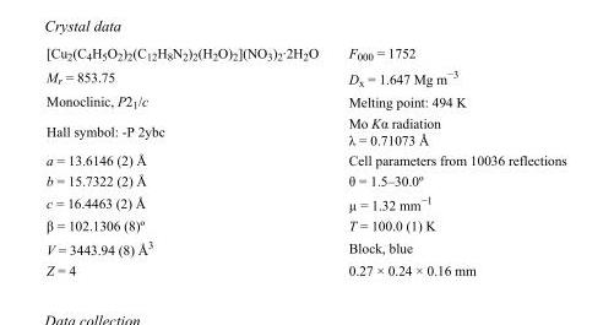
<table><tbody><tr><td>[Cu<sub>2</sub>(C<sub>4</sub>H<sub>5</sub>O<sub>2</sub>)<sub>2</sub>(C<sub>12</sub>H<sub>8</sub>N<sub>2</sub>)<sub>2</sub>(H<sub>2</sub>O)<sub>2</sub>](NO<sub>3</sub>)<sub>2</sub>·2H<sub>2</sub>O</td><td>F<sub>000</sub> = 1752</td></tr><tr><td>M<sub>r</sub> = 853.75</td><td>D<sub>x</sub> = 1.647 Mg m<sup>−3</sup></td></tr><tr><td>Monoclinic, P2<sub>1</sub>/c</td><td>Melting point: 494 K</td></tr><tr><td>Hall symbol: -P 2ybc</td><td>Mo Kα radiation λ = 0.71073 Å</td></tr><tr><td>a = 13.6146 (2) Å</td><td>Cell parameters from 10036 reflections</td></tr><tr><td>b = 15.7322 (2) Å</td><td>θ = 1.5–30.0º</td></tr><tr><td>c = 16.4463 (2) Å</td><td>µ = 1.32 mm<sup>−1</sup></td></tr><tr><td>β = 102.1306 (8)º</td><td>T = 100.0 (1) K</td></tr><tr><td>V = 3443.94 (8) Å<sup>3</sup></td><td>Block, blue</td></tr><tr><td>Z = 4</td><td>0.27 × 0.24 × 0.16 mm</td></tr></tbody></table>